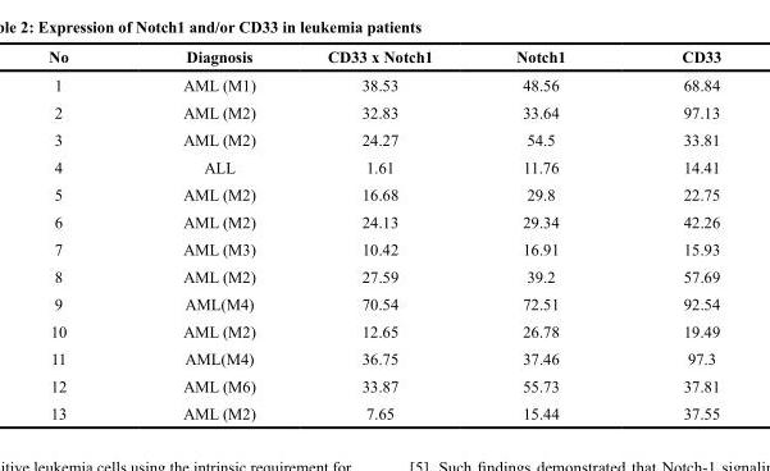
<table><thead><tr><td>No</td><td>Diagnosis</td><td>CD33 x Notch1</td><td>Notch1</td><td>CD33</td></tr></thead><tbody><tr><td>1</td><td>AML (M1)</td><td>38.53</td><td>48.56</td><td>68.84</td></tr><tr><td>2</td><td>AML (M2)</td><td>32.83</td><td>33.64</td><td>97.13</td></tr><tr><td>3</td><td>AML (M2)</td><td>24.27</td><td>54.5</td><td>33.81</td></tr><tr><td>4</td><td>ALL</td><td>1.61</td><td>11.76</td><td>14.41</td></tr><tr><td>5</td><td>AML (M2)</td><td>16.68</td><td>29.8</td><td>22.75</td></tr><tr><td>6</td><td>AML (M2)</td><td>24.13</td><td>29.34</td><td>42.26</td></tr><tr><td>7</td><td>AML (M3)</td><td>10.42</td><td>16.91</td><td>15.93</td></tr><tr><td>8</td><td>AML (M2)</td><td>27.59</td><td>39.2</td><td>57.69</td></tr><tr><td>9</td><td>AML(M4)</td><td>70.54</td><td>72.51</td><td>92.54</td></tr><tr><td>10</td><td>AML (M2)</td><td>12.65</td><td>26.78</td><td>19.49</td></tr><tr><td>11</td><td>AML(M4)</td><td>36.75</td><td>37.46</td><td>97.3</td></tr><tr><td>12</td><td>AML (M6)</td><td>33.87</td><td>55.73</td><td>37.81</td></tr><tr><td>13</td><td>AML (M2)</td><td>7.65</td><td>15.44</td><td>37.55</td></tr></tbody></table>